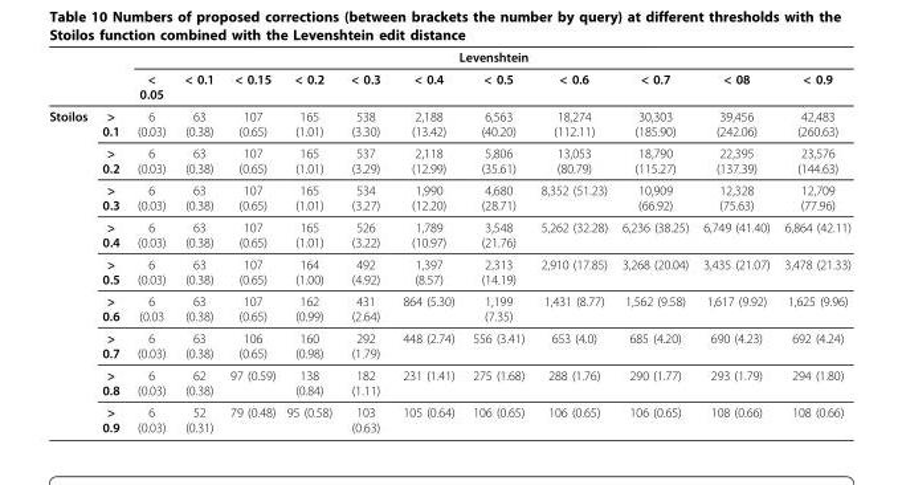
<table><thead><tr><td rowspan="2"></td><td rowspan="2"></td><td colspan="11">Levenshtein</td></tr><tr><td>&lt; 0.05</td><td>&lt; 0.1</td><td>&lt; 0.15</td><td>&lt; 0.2</td><td>&lt; 0.3</td><td>&lt; 0.4</td><td>&lt; 0.5</td><td>&lt; 0.6</td><td>&lt; 0.7</td><td>&lt; 08</td><td>&lt; 0.9</td></tr></thead><tbody><tr><td rowspan="9">Stoilos</td><td>&gt; 0.1</td><td>6 (0.03)</td><td>63 (0.38)</td><td>107 (0.65)</td><td>165 (1.01)</td><td>538 (3.30)</td><td>2,188 (13.42)</td><td>6,563 (40.20)</td><td>18,274 (112.11)</td><td>30,303 (185.90)</td><td>39,456 (242.06)</td><td>42,483 (260.63)</td></tr><tr><td>&gt; 0.2</td><td>6 (0.03)</td><td>63 (0.38)</td><td>107 (0.65)</td><td>165 (1.01)</td><td>537 (3.29)</td><td>2,118 (12.99)</td><td>5,806 (35.61)</td><td>13,053 (80.79)</td><td>18,790 (115.27)</td><td>22,395 (137.39)</td><td>23,576 (144.63)</td></tr><tr><td>&gt; 0.3</td><td>6 (0.03)</td><td>63 (0.38)</td><td>107 (0.65)</td><td>165 (1.01)</td><td>534 (3.27)</td><td>1,990 (12.20)</td><td>4,680 (28.71)</td><td>8,352 (51.23)</td><td>10,909 (66.92)</td><td>12,328 (75.63)</td><td>12,709 (77.96)</td></tr><tr><td>&gt; 0.4</td><td>6 (0.03)</td><td>63 (0.38)</td><td>107 (0.65)</td><td>165 (1.01)</td><td>526 (3.22)</td><td>1,789 (10.97)</td><td>3,548 (21.76)</td><td>5,262 (32.28)</td><td>6,236 (38.25)</td><td>6,749 (41.40)</td><td>6,864 (42.11)</td></tr><tr><td>&gt; 0.5</td><td>6 (0.03)</td><td>63 (0.38)</td><td>107 (0.65)</td><td>164 (1.00)</td><td>492 (4.92)</td><td>1,397 (8.57)</td><td>2,313 (14.19)</td><td>2,910 (17.85)</td><td>3,268 (20.04)</td><td>3,435 (21.07)</td><td>3,478 (21.33)</td></tr><tr><td>&gt; 0.6</td><td>6 (0.03</td><td>63 (0.38)</td><td>107 (0.65)</td><td>162 (0.99)</td><td>431 (2.64)</td><td>864 (5.30)</td><td>1,199 (7.35)</td><td>1,431 (8.77)</td><td>1,562 (9.58)</td><td>1,617 (9.92)</td><td>1,625 (9.96)</td></tr><tr><td>&gt; 0.7</td><td>6 (0.03)</td><td>63 (0.38)</td><td>106 (0.65)</td><td>160 (0.98)</td><td>292 (1.79)</td><td>448 (2.74)</td><td>556 (3.41)</td><td>653 (4.0)</td><td>685 (4.20)</td><td>690 (4.23)</td><td>692 (4.24)</td></tr><tr><td>&gt; 0.8</td><td>6 (0.03)</td><td>62 (0.38)</td><td>97 (0.59)</td><td>138 (0.84)</td><td>182 (1.11)</td><td>231 (1.41)</td><td>275 (1.68)</td><td>288 (1.76)</td><td>290 (1.77)</td><td>293 (1.79)</td><td>294 (1.80)</td></tr><tr><td>&gt; 0.9</td><td>6 (0.03)</td><td>52 (0.31)</td><td>79 (0.48)</td><td>95 (0.58)</td><td>103 (0.63)</td><td>105 (0.64)</td><td>106 (0.65)</td><td>106 (0.65)</td><td>106 (0.65)</td><td>108 (0.66)</td><td>108 (0.66)</td></tr></tbody></table>